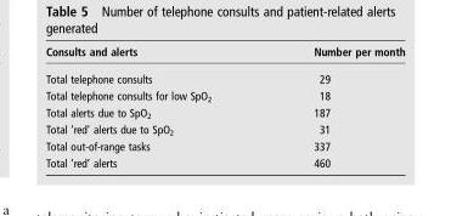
<table><thead><tr><td>Consults and alerts</td><td>Number per month</td></tr></thead><tbody><tr><td>Total telephone consults</td><td>29</td></tr><tr><td>Total telephone consults for low SpO<sub>2</sub></td><td>18</td></tr><tr><td>Total alerts due to SpO<sub>2</sub></td><td>187</td></tr><tr><td>Total ‘red’ alerts due to SpO<sub>2</sub></td><td>31</td></tr><tr><td>Total out-of-range tasks</td><td>337</td></tr><tr><td>Total ‘red’ alerts</td><td>460</td></tr></tbody></table>